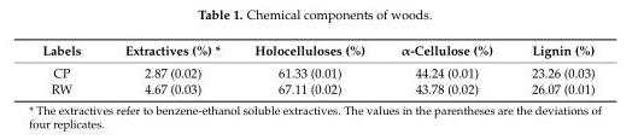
<table><thead><tr><td>Labels</td><td>Extractives (%) *</td><td>Holocelluloses (%)</td><td>α-Cellulose (%)</td><td>Lignin (%)</td></tr></thead><tbody><tr><td>CP</td><td>2.87 (0.02)</td><td>61.33 (0.01)</td><td>44.24 (0.01)</td><td>23.26 (0.03)</td></tr><tr><td>RW</td><td>4.67 (0.03)</td><td>67.11 (0.02)</td><td>43.78 (0.02)</td><td>26.07 (0.01)</td></tr></tbody></table>